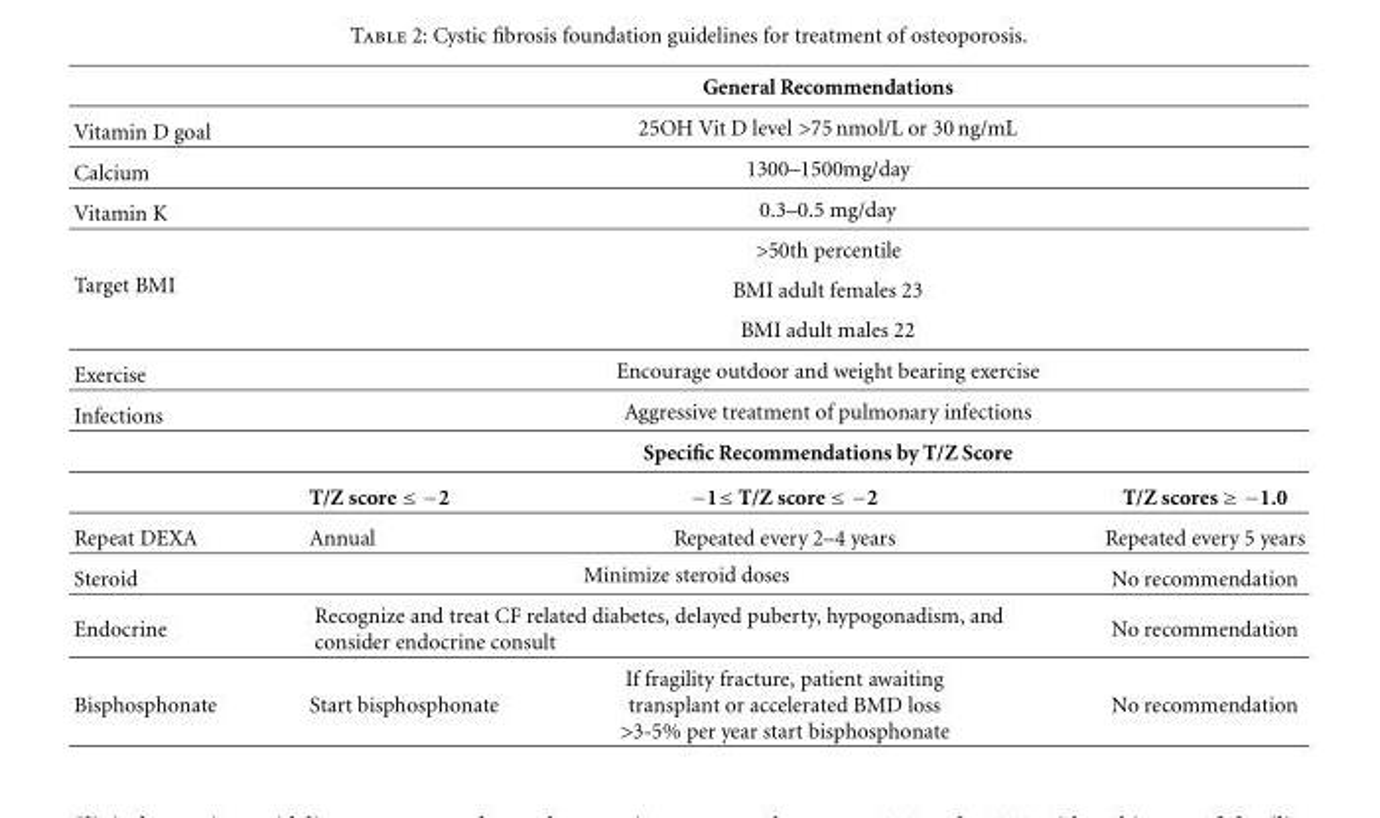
<table><thead><tr><td></td><td colspan="3">General Recommendations</td></tr></thead><tbody><tr><td>Vitamin D goal</td><td colspan="3">25OH Vit D level &gt;75 nmol/L or 30 ng/mL</td></tr><tr><td>Calcium</td><td colspan="3">1300–1500mg/day</td></tr><tr><td>Vitamin K</td><td colspan="3">0.3–0.5 mg/day</td></tr><tr><td rowspan="3">Target BMI</td><td colspan="3">&gt;50th percentile</td></tr><tr><td colspan="3">BMI adult females 23</td></tr><tr><td colspan="3">BMI adult males 22</td></tr><tr><td>Exercise</td><td colspan="3">Encourage outdoor and weight bearing exercise</td></tr><tr><td rowspan="3">Infections</td><td colspan="3">Aggressive treatment of pulmonary infections</td></tr><tr><td colspan="3">Specific Recommendations by T/Z Score</td></tr><tr><td>T/Z score ≤ −2</td><td>−1≤ T/Z score ≤ −2</td><td>T/Z scores ≥ −1.0</td></tr><tr><td>Repeat DEXA</td><td>Annual</td><td>Repeated every 2–4 years</td><td>Repeated every 5 years</td></tr><tr><td>Steroid</td><td colspan="2">Minimize steroid doses</td><td>No recommendation</td></tr><tr><td>Endocrine</td><td colspan="2">Recognize and treat CF related diabetes, delayed puberty, hypogonadism, and consider endocrine consult</td><td>No recommendation</td></tr><tr><td>Bisphosphonate</td><td>Start bisphosphonate</td><td>If fragility fracture, patient awaiting transplant or accelerated BMD loss &gt;3-5% per year start bisphosphonate</td><td>No recommendation</td></tr></tbody></table>